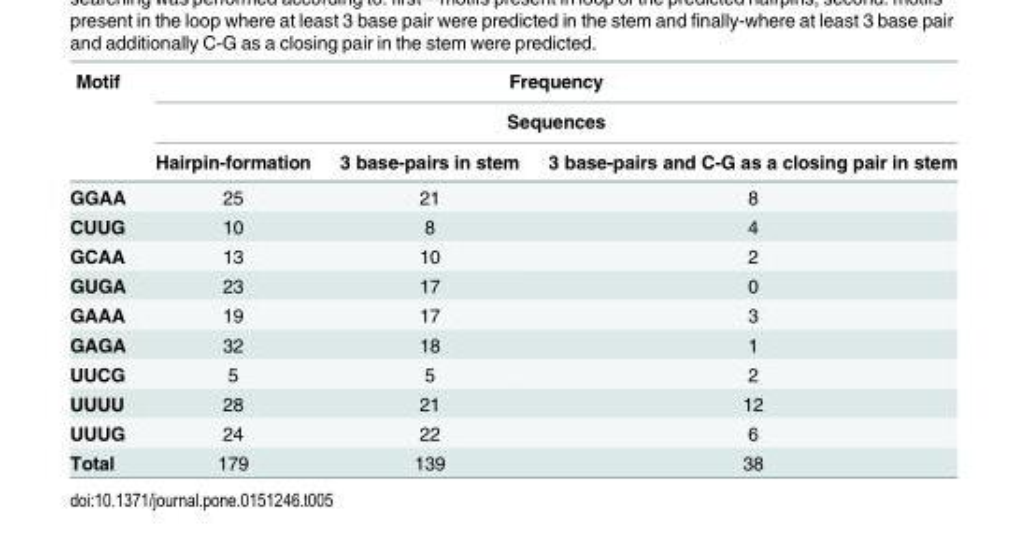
<table><thead><tr><td rowspan="3">Motif</td><td rowspan="2" colspan="3">Frequency Sequences</td></tr><tr></tr><tr><td>Hairpin-formation</td><td>3 base-pairs in stem</td><td>3 base-pairs and C-G as a closing pair in stem</td></tr></thead><tbody><tr><td>GGAA</td><td>25</td><td>21</td><td>8</td></tr><tr><td>CUUG</td><td>10</td><td>8</td><td>4</td></tr><tr><td>GCAA</td><td>13</td><td>10</td><td>2</td></tr><tr><td>GUGA</td><td>23</td><td>17</td><td>0</td></tr><tr><td>GAAA</td><td>19</td><td>17</td><td>3</td></tr><tr><td>GAGA</td><td>32</td><td>18</td><td>1</td></tr><tr><td>UUCG</td><td>5</td><td>5</td><td>2</td></tr><tr><td>UUUU</td><td>28</td><td>21</td><td>12</td></tr><tr><td>UUUG</td><td>24</td><td>22</td><td>6</td></tr><tr><td>Total</td><td>179</td><td>139</td><td>38</td></tr></tbody></table>